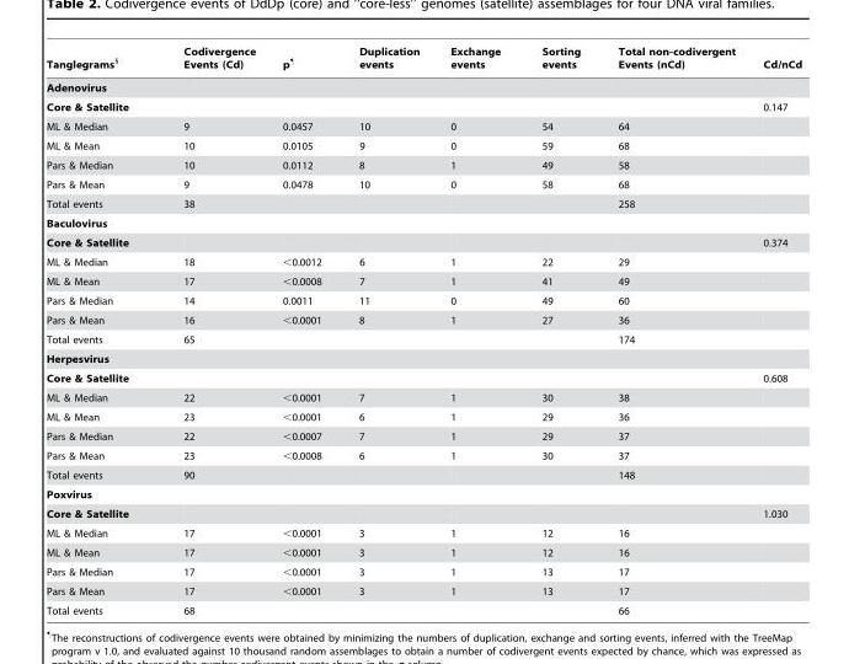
<table><thead><tr><td>Tanglegrams§</td><td>Codivergence Events (Cd)</td><td>p¶</td><td>Duplication events</td><td>Exchange events</td><td>Sorting events</td><td>Total non-codivergent Events (nCd)</td><td>Cd/nCd</td></tr></thead><tbody><tr><td colspan="8">Adenovirus</td></tr><tr><td>Core &amp; Satellite</td><td></td><td></td><td></td><td></td><td></td><td></td><td>0.147</td></tr><tr><td>ML &amp; Median</td><td>9</td><td>0.0457</td><td>10</td><td>0</td><td>54</td><td>64</td><td></td></tr><tr><td>ML &amp; Mean</td><td>10</td><td>0.0105</td><td>9</td><td>0</td><td>59</td><td>68</td><td></td></tr><tr><td>Pars &amp; Median</td><td>10</td><td>0.0112</td><td>8</td><td>1</td><td>49</td><td>58</td><td></td></tr><tr><td>Pars &amp; Mean</td><td>9</td><td>0.0478</td><td>10</td><td>0</td><td>58</td><td>68</td><td></td></tr><tr><td>Total events</td><td>38</td><td></td><td></td><td></td><td></td><td>258</td><td></td></tr><tr><td colspan="8">Baculovirus</td></tr><tr><td>Core &amp; Satellite</td><td></td><td></td><td></td><td></td><td></td><td></td><td>0.374</td></tr><tr><td>ML &amp; Median</td><td>18</td><td>&lt;0.0012</td><td>6</td><td>1</td><td>22</td><td>29</td><td></td></tr><tr><td>ML &amp; Mean</td><td>17</td><td>&lt;0.0008</td><td>7</td><td>1</td><td>41</td><td>49</td><td></td></tr><tr><td>Pars &amp; Median</td><td>14</td><td>0.0011</td><td>11</td><td>0</td><td>49</td><td>60</td><td></td></tr><tr><td>Pars &amp; Mean</td><td>16</td><td>&lt;0.0001</td><td>8</td><td>1</td><td>27</td><td>36</td><td></td></tr><tr><td>Total events</td><td>65</td><td></td><td></td><td></td><td></td><td>174</td><td></td></tr><tr><td colspan="8">Herpesvirus</td></tr><tr><td>Core &amp; Satellite</td><td></td><td></td><td></td><td></td><td></td><td></td><td>0.608</td></tr><tr><td>ML &amp; Median</td><td>22</td><td>&lt;0.0001</td><td>7</td><td>1</td><td>30</td><td>38</td><td></td></tr><tr><td>ML &amp; Mean</td><td>23</td><td>&lt;0.0001</td><td>6</td><td>1</td><td>29</td><td>36</td><td></td></tr><tr><td>Pars &amp; Median</td><td>22</td><td>&lt;0.0007</td><td>7</td><td>1</td><td>29</td><td>37</td><td></td></tr><tr><td>Pars &amp; Mean</td><td>23</td><td>&lt;0.0008</td><td>6</td><td>1</td><td>30</td><td>37</td><td></td></tr><tr><td>Total events</td><td>90</td><td></td><td></td><td></td><td></td><td>148</td><td></td></tr><tr><td colspan="8">Poxvirus</td></tr><tr><td>Core &amp; Satellite</td><td></td><td></td><td></td><td></td><td></td><td></td><td>1.030</td></tr><tr><td>ML &amp; Median</td><td>17</td><td>&lt;0.0001</td><td>3</td><td>1</td><td>12</td><td>16</td><td></td></tr><tr><td>ML &amp; Mean</td><td>17</td><td>&lt;0.0001</td><td>3</td><td>1</td><td>12</td><td>16</td><td></td></tr><tr><td>Pars &amp; Median</td><td>17</td><td>&lt;0.0001</td><td>3</td><td>1</td><td>13</td><td>17</td><td></td></tr><tr><td>Pars &amp; Mean</td><td>17</td><td>&lt;0.0001</td><td>3</td><td>1</td><td>13</td><td>17</td><td></td></tr><tr><td>Total events</td><td>68</td><td></td><td></td><td></td><td></td><td>66</td><td></td></tr></tbody></table>